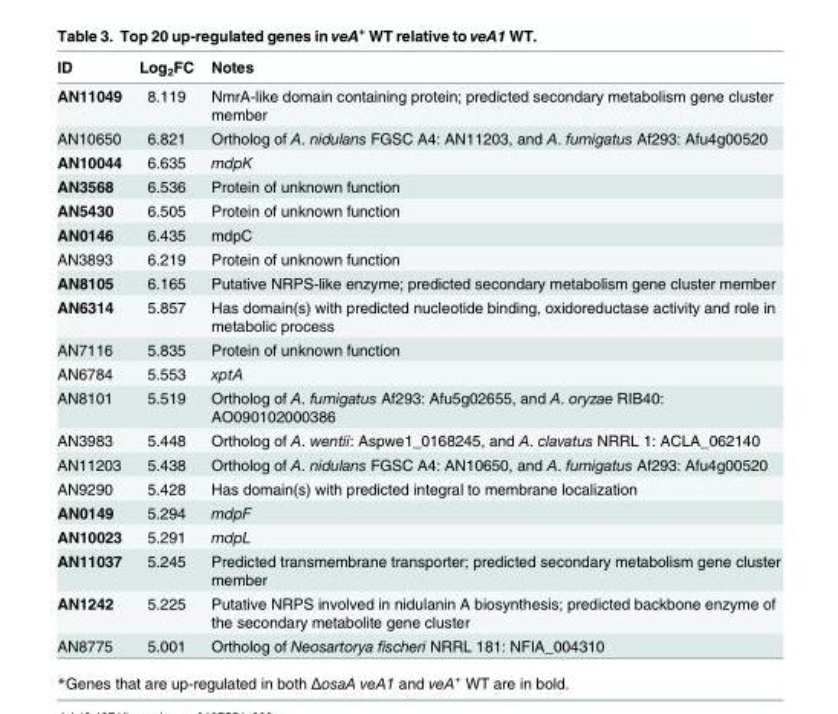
<table><thead><tr><td>ID</td><td>Log<sub>2</sub>FC</td><td>Notes</td></tr></thead><tbody><tr><td>AN11049</td><td>8.119</td><td>NmrA-like domain containing protein; predicted secondary metabolism gene cluster member</td></tr><tr><td>AN10650</td><td>6.821</td><td>Ortholog of A. nidulans FGSC A4: AN11203, and A. fumigatus Af293: Afu4g00520</td></tr><tr><td>AN10044</td><td>6.635</td><td>mdpK</td></tr><tr><td>AN3568</td><td>6.536</td><td>Protein of unknown function</td></tr><tr><td>AN5430</td><td>6.505</td><td>Protein of unknown function</td></tr><tr><td>AN0146</td><td>6.435</td><td>mdpC</td></tr><tr><td>AN3893</td><td>6.219</td><td>Protein of unknown function</td></tr><tr><td>AN8105</td><td>6.165</td><td>Putative NRPS-like enzyme; predicted secondary metabolism gene cluster member</td></tr><tr><td>AN6314</td><td>5.857</td><td>Has domain(s) with predicted nucleotide binding, oxidoreductase activity and role in metabolic process</td></tr><tr><td>AN7116</td><td>5.835</td><td>Protein of unknown function</td></tr><tr><td>AN6784</td><td>5.553</td><td>xptA</td></tr><tr><td>AN8101</td><td>5.519</td><td>Ortholog of A. fumigatus Af293: Afu5g02655, and A. oryzae RIB40: AO090102000386</td></tr><tr><td>AN3983</td><td>5.448</td><td>Ortholog of A. wentii: Aspwe1_0168245, and A. clavatus NRRL 1: ACLA_062140</td></tr><tr><td>AN11203</td><td>5.438</td><td>Ortholog of A. nidulans FGSC A4: AN10650, and A. fumigatus Af293: Afu4g00520</td></tr><tr><td>AN9290</td><td>5.428</td><td>Has domain(s) with predicted integral to membrane localization</td></tr><tr><td>AN0149</td><td>5.294</td><td>mdpF</td></tr><tr><td>AN10023</td><td>5.291</td><td>mdpL</td></tr><tr><td>AN11037</td><td>5.245</td><td>Predicted transmembrane transporter; predicted secondary metabolism gene cluster member</td></tr><tr><td>AN1242</td><td>5.225</td><td>Putative NRPS involved in nidulanin A biosynthesis; predicted backbone enzyme of the secondary metabolite gene cluster</td></tr><tr><td>AN8775</td><td>5.001</td><td>Ortholog of Neosartorya fischeri NRRL 181: NFIA_004310</td></tr></tbody></table>